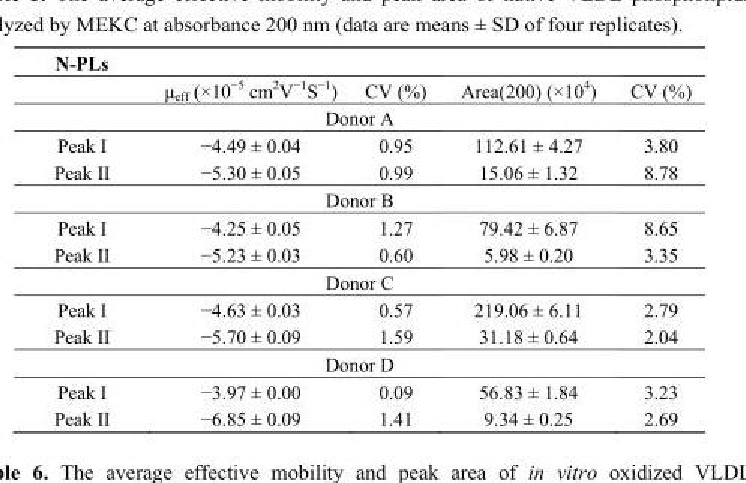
<table><thead><tr><td rowspan="2">N-PLs</td><td rowspan="2">μ<sub>eff</sub> (×10<sup>−5</sup> cm<sup>2</sup>V<sup>−1</sup>S<sup>−1</sup>)</td><td rowspan="2">CV (%)</td><td rowspan="2">Area(200) (×10<sup>4</sup>)</td><td rowspan="2">CV (%)</td></tr><tr></tr></thead><tbody><tr><td colspan="5">Donor A</td></tr><tr><td>Peak I</td><td>−4.49 ± 0.04</td><td>0.95</td><td>112.61 ± 4.27</td><td>3.80</td></tr><tr><td>Peak II</td><td>−5.30 ± 0.05</td><td>0.99</td><td>15.06 ± 1.32</td><td>8.78</td></tr><tr><td colspan="5">Donor B</td></tr><tr><td>Peak I</td><td>−4.25 ± 0.05</td><td>1.27</td><td>79.42 ± 6.87</td><td>8.65</td></tr><tr><td>Peak II</td><td>−5.23 ± 0.03</td><td>0.60</td><td>5.98 ± 0.20</td><td>3.35</td></tr><tr><td colspan="5">Donor C</td></tr><tr><td>Peak I</td><td>−4.63 ± 0.03</td><td>0.57</td><td>219.06 ± 6.11</td><td>2.79</td></tr><tr><td>Peak II</td><td>−5.70 ± 0.09</td><td>1.59</td><td>31.18 ± 0.64</td><td>2.04</td></tr><tr><td colspan="5">Donor D</td></tr><tr><td>Peak I</td><td>−3.97 ± 0.00</td><td>0.09</td><td>56.83 ± 1.84</td><td>3.23</td></tr><tr><td>Peak II</td><td>−6.85 ± 0.09</td><td>1.41</td><td>9.34 ± 0.25</td><td>2.69</td></tr></tbody></table>